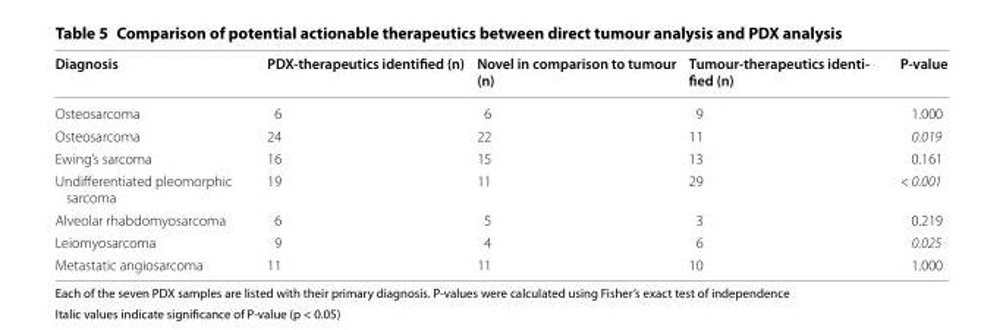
<table><thead><tr><td>Diagnosis</td><td>PDX‑therapeutics identified (n)</td><td>Novel in comparison to tumour (n)</td><td>Tumour‑therapeutics identi‑ fied (n)</td><td>P‑value</td></tr></thead><tbody><tr><td>Osteosarcoma</td><td>6</td><td>6</td><td>9</td><td>1.000</td></tr><tr><td>Osteosarcoma</td><td>24</td><td>22</td><td>11</td><td>0.019</td></tr><tr><td>Ewing’s sarcoma</td><td>16</td><td>15</td><td>13</td><td>0.161</td></tr><tr><td>Undifferentiated pleomorphic sarcoma</td><td>19</td><td>11</td><td>29</td><td>&lt; 0.001</td></tr><tr><td>Alveolar rhabdomyosarcoma</td><td>6</td><td>5</td><td>3</td><td>0.219</td></tr><tr><td>Leiomyosarcoma</td><td>9</td><td>4</td><td>6</td><td>0.025</td></tr><tr><td>Metastatic angiosarcoma</td><td>11</td><td>11</td><td>10</td><td>1.000</td></tr></tbody></table>